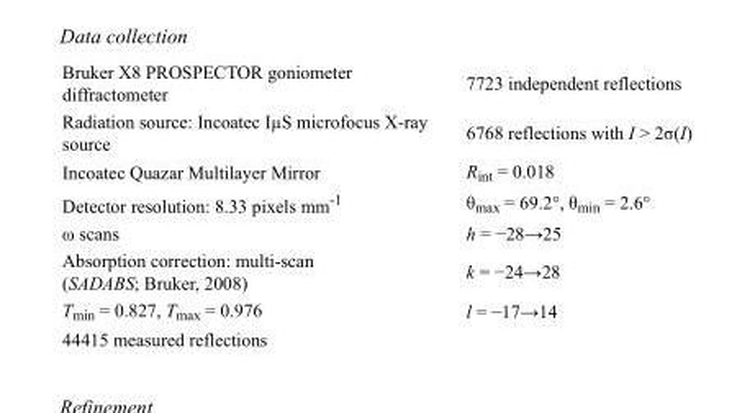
<table><tbody><tr><td>Bruker X8 PROSPECTOR goniometer diffractometer</td><td>7723 independent reflections</td></tr><tr><td>Radiation source: Incoatec IµS microfocus X-ray source</td><td>6768 reflections with I &gt; 2σ(I)</td></tr><tr><td>Incoatec Quazar Multilayer Mirror</td><td>R<sub>int</sub> = 0.018</td></tr><tr><td>Detector resolution: 8.33 pixels mm<sup>-1</sup></td><td>θ<sub>max</sub> = 69.2°, θ<sub>min</sub> = 2.6°</td></tr><tr><td>ω scans</td><td>h = −28→25</td></tr><tr><td>Absorption correction: multi-scan (SADABS; Bruker, 2008)</td><td>k = −24→28</td></tr><tr><td>T<sub>min</sub> = 0.827, T<sub>max</sub> = 0.976</td><td>l = −17→14</td></tr><tr><td>44415 measured reflections</td><td></td></tr></tbody></table>